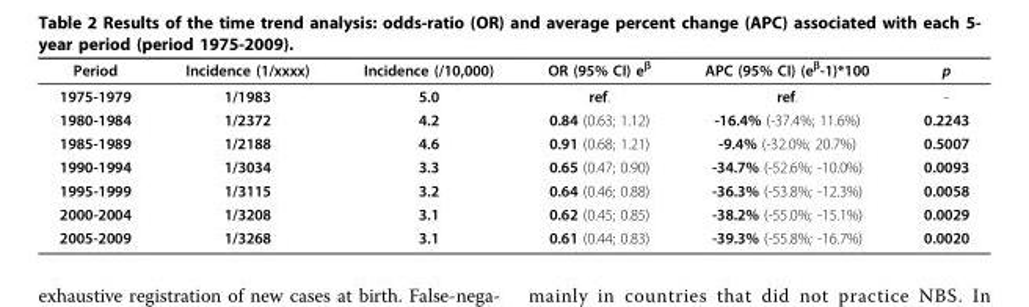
<table><thead><tr><td>Period</td><td>Incidence (1/xxxx)</td><td>Incidence (/10,000)</td><td>OR (95% CI) e<sup>β</sup></td><td>APC (95% CI) (e<sup>β</sup>-1)*100</td><td>p</td></tr></thead><tbody><tr><td>1975-1979</td><td>1/1983</td><td>5.0</td><td>ref.</td><td>ref.</td><td>-</td></tr><tr><td>1980-1984</td><td>1/2372</td><td>4.2</td><td>0.84 (0.63; 1.12)</td><td>-16.4% (-37.4%; 11.6%)</td><td>0.2243</td></tr><tr><td>1985-1989</td><td>1/2188</td><td>4.6</td><td>0.91 (0.68; 1.21)</td><td>-9.4% (-32.0%; 20.7%)</td><td>0.5007</td></tr><tr><td>1990-1994</td><td>1/3034</td><td>3.3</td><td>0.65 (0.47; 0.90)</td><td>-34.7% (-52.6%; -10.0%)</td><td>0.0093</td></tr><tr><td>1995-1999</td><td>1/3115</td><td>3.2</td><td>0.64 (0.46; 0.88)</td><td>-36.3% (-53.8%; -12.3%)</td><td>0.0058</td></tr><tr><td>2000-2004</td><td>1/3208</td><td>3.1</td><td>0.62 (0.45; 0.85)</td><td>-38.2% (-55.0%; -15.1%)</td><td>0.0029</td></tr><tr><td>2005-2009</td><td>1/3268</td><td>3.1</td><td>0.61 (0.44; 0.83)</td><td>-39.3% (-55.8%; -16.7%)</td><td>0.0020</td></tr></tbody></table>